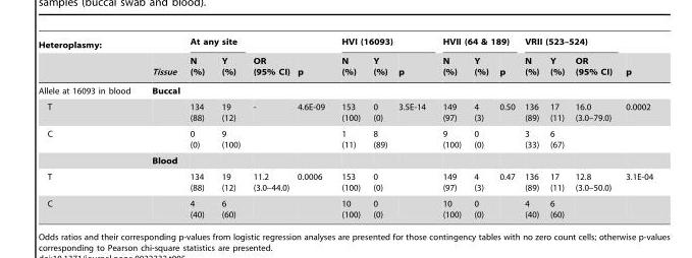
<table><thead><tr><td rowspan="2">Heteroplasmy:</td><td rowspan="2">Tissue</td><td colspan="2">At any site</td><td rowspan="2">OR (95% CI)</td><td rowspan="2">p</td><td colspan="3">HVI (16093)</td><td colspan="3">HVII (64 &amp; 189)</td><td colspan="3">VRII (523–524)</td><td rowspan="2">p</td></tr><tr><td>N (%)</td><td>Y (%)</td><td>N (%)</td><td>Y (%)</td><td>p</td><td>N (%)</td><td>Y (%)</td><td>p</td><td>N (%)</td><td>Y (%)</td><td>OR (95% CI)</td></tr></thead><tbody><tr><td>Allele at 16093 in blood</td><td>Buccal</td><td></td><td></td><td></td><td></td><td></td><td></td><td></td><td></td><td></td><td></td><td></td><td></td><td></td><td></td></tr><tr><td>T</td><td></td><td>134 (88)</td><td>19 (12)</td><td>-</td><td>4.6E-09</td><td>153 (100)</td><td>0 (0)</td><td>3.5E-14</td><td>149 (97)</td><td>4 (3)</td><td>0.50</td><td>136 (89)</td><td>17 (11)</td><td>16.0 (3.0–79.0)</td><td>0.0002</td></tr><tr><td rowspan="2">C</td><td></td><td>0 (0)</td><td>9 (100)</td><td></td><td></td><td>1 (11)</td><td>8 (89)</td><td></td><td>9 (100)</td><td>0 (0)</td><td></td><td>3 (33)</td><td>6 (67)</td><td></td><td></td></tr><tr><td>Blood</td><td></td><td></td><td></td><td></td><td></td><td></td><td></td><td></td><td></td><td></td><td></td><td></td><td></td><td></td></tr><tr><td>T</td><td></td><td>134 (88)</td><td>19 (12)</td><td>11.2 (3.0–44.0)</td><td>0.0006</td><td>153 (100)</td><td>0 (0)</td><td></td><td>149 (97)</td><td>4 (3)</td><td>0.47</td><td>136 (89)</td><td>17 (11)</td><td>12.8 (3.0–50.0)</td><td>3.1E-04</td></tr><tr><td>C</td><td></td><td>4 (40)</td><td>6 (60)</td><td></td><td></td><td>10 (100)</td><td>0 (0)</td><td></td><td>10 (100)</td><td>0 (0)</td><td></td><td>4 (40)</td><td>6 (60)</td><td></td><td></td></tr></tbody></table>